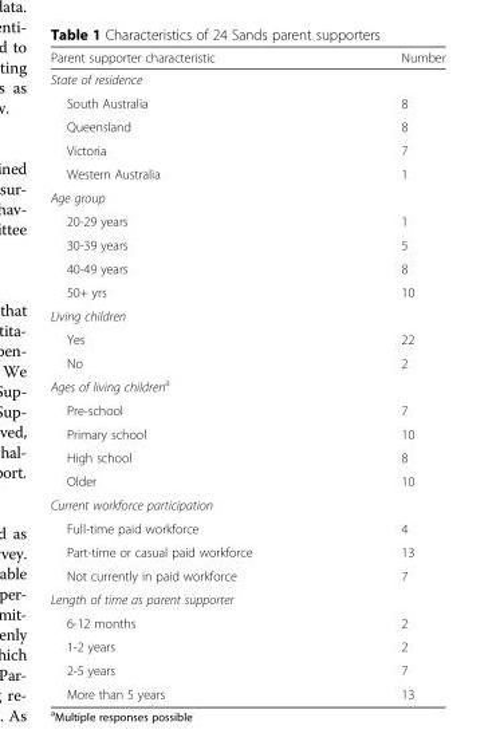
<table><thead><tr><td>Parent supporter characteristic</td><td>Number</td></tr></thead><tbody><tr><td colspan="2">State of residence</td></tr><tr><td>South Australia</td><td>8</td></tr><tr><td>Queensland</td><td>8</td></tr><tr><td>Victoria</td><td>7</td></tr><tr><td>Western Australia</td><td>1</td></tr><tr><td colspan="2">Age group</td></tr><tr><td>20-29 years</td><td>1</td></tr><tr><td>30-39 years</td><td>5</td></tr><tr><td>40-49 years</td><td>8</td></tr><tr><td>50+ yrs</td><td>10</td></tr><tr><td colspan="2">Living children</td></tr><tr><td>Yes</td><td>22</td></tr><tr><td>No</td><td>2</td></tr><tr><td colspan="2">Ages of living children<sup>a</sup></td></tr><tr><td>Pre-school</td><td>7</td></tr><tr><td>Primary school</td><td>10</td></tr><tr><td>High school</td><td>8</td></tr><tr><td>Older</td><td>10</td></tr><tr><td colspan="2">Current workforce participation</td></tr><tr><td>Full-time paid workforce</td><td>4</td></tr><tr><td>Part-time or casual paid workforce</td><td>13</td></tr><tr><td>Not currently in paid workforce</td><td>7</td></tr><tr><td colspan="2">Length of time as parent supporter</td></tr><tr><td>6-12 months</td><td>2</td></tr><tr><td>1-2 years</td><td>2</td></tr><tr><td>2-5 years</td><td>7</td></tr><tr><td>More than 5 years</td><td>13</td></tr></tbody></table>